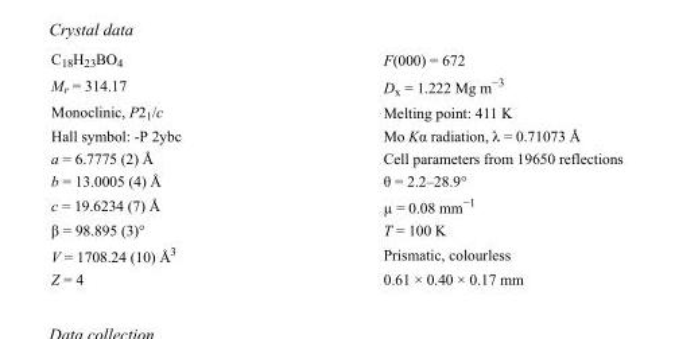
<table><tbody><tr><td>C<sub>18</sub>H<sub>23</sub>BO<sub>4</sub></td><td>F(000) = 672</td></tr><tr><td>M<sub>r</sub> = 314.17</td><td>D<sub>x</sub> = 1.222 Mg m<sup>−3</sup></td></tr><tr><td>Monoclinic, P2<sub>1</sub>/c</td><td>Melting point: 411 K</td></tr><tr><td>Hall symbol: -P 2ybc</td><td>Mo Kα radiation, λ = 0.71073 Å</td></tr><tr><td>a = 6.7775 (2) Å</td><td>Cell parameters from 19650 reflections</td></tr><tr><td>b = 13.0005 (4) Å</td><td>θ = 2.2–28.9°</td></tr><tr><td>c = 19.6234 (7) Å</td><td>µ = 0.08 mm<sup>−1</sup></td></tr><tr><td>β = 98.895 (3)°</td><td>T = 100 K</td></tr><tr><td>V = 1708.24 (10) Å<sup>3</sup></td><td>Prismatic, colourless</td></tr><tr><td>Z = 4</td><td>0.61 × 0.40 × 0.17 mm</td></tr></tbody></table>